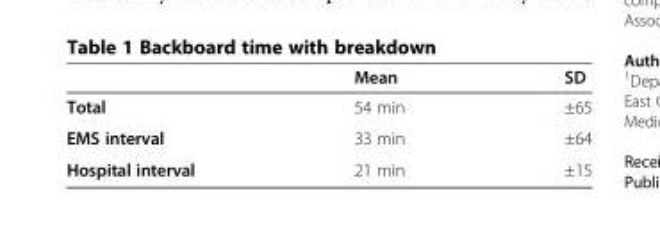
<table><thead><tr><td></td><td>Mean</td><td>SD</td></tr></thead><tbody><tr><td>Total</td><td>54 min</td><td>±65</td></tr><tr><td>EMS interval</td><td>33 min</td><td>±64</td></tr><tr><td>Hospital interval</td><td>21 min</td><td>±15</td></tr></tbody></table>